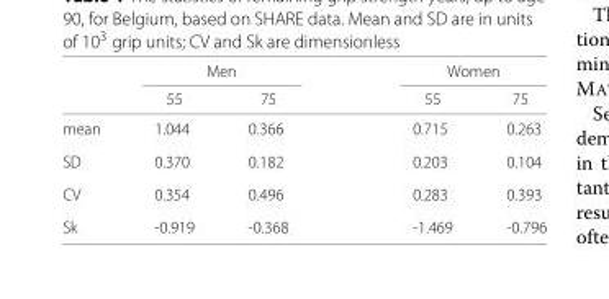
<table><thead><tr><td rowspan="2"></td><td colspan="2">Men</td><td colspan="2">Women</td></tr><tr><td>55</td><td>75</td><td>55</td><td>75</td></tr></thead><tbody><tr><td>mean</td><td>1.044</td><td>0.366</td><td>0.715</td><td>0.263</td></tr><tr><td>SD</td><td>0.370</td><td>0.182</td><td>0.203</td><td>0.104</td></tr><tr><td>CV</td><td>0.354</td><td>0.496</td><td>0.283</td><td>0.393</td></tr><tr><td>Sk</td><td>-0.919</td><td>-0.368</td><td>-1.469</td><td>-0.796</td></tr></tbody></table>